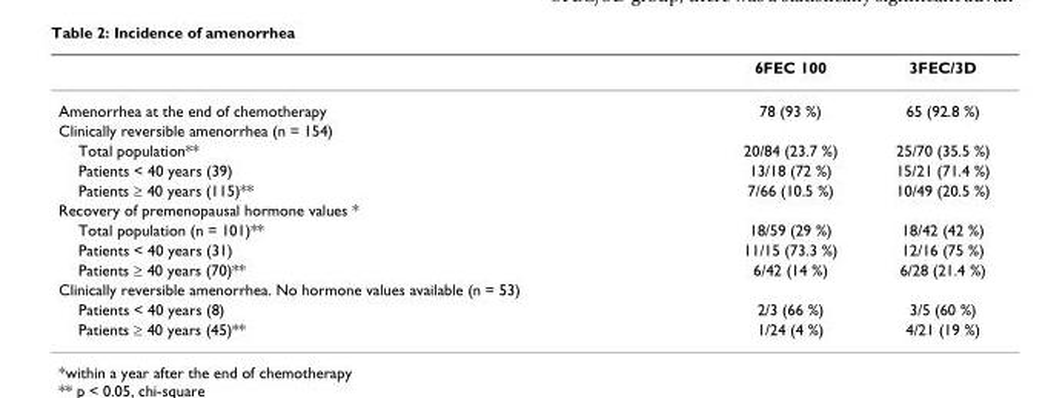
<table><thead><tr><td></td><td>6FEC 100</td><td>3FEC/3D</td></tr></thead><tbody><tr><td>Amenorrhea at the end of chemotherapy</td><td>78 (93 %)</td><td>65 (92.8 %)</td></tr><tr><td colspan="3">Clinically reversible amenorrhea (n = 154)</td></tr><tr><td>Total population**</td><td>20/84 (23.7 %)</td><td>25/70 (35.5 %)</td></tr><tr><td>Patients &lt; 40 years (39)</td><td>13/18 (72 %)</td><td>15/21 (71.4 %)</td></tr><tr><td>Patients ≥ 40 years (115)**</td><td>7/66 (10.5 %)</td><td>10/49 (20.5 %)</td></tr><tr><td colspan="3">Recovery of premenopausal hormone values *</td></tr><tr><td>Total population (n = 101)**</td><td>18/59 (29 %)</td><td>18/42 (42 %)</td></tr><tr><td>Patients &lt; 40 years (31)</td><td>11/15 (73.3 %)</td><td>12/16 (75 %)</td></tr><tr><td>Patients ≥ 40 years (70)**</td><td>6/42 (14 %)</td><td>6/28 (21.4 %)</td></tr><tr><td colspan="3">Clinically reversible amenorrhea. No hormone values available (n = 53)</td></tr><tr><td>Patients &lt; 40 years (8)</td><td>2/3 (66 %)</td><td>3/5 (60 %)</td></tr><tr><td>Patients ≥ 40 years (45)**</td><td>1/24 (4 %)</td><td>4/21 (19 %)</td></tr></tbody></table>